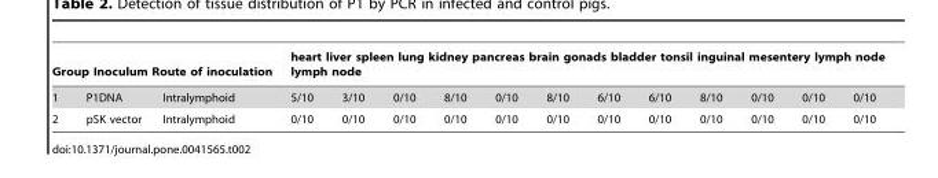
<table><thead><tr><td colspan="3">Group Inoculum Route of inoculation</td><td colspan="12">heart liver spleen lung kidney pancreas brain gonads bladder tonsil inguinal mesentery lymph node lymph node</td></tr><tr><td>1</td><td>P1DNA</td><td>Intralymphoid</td><td>5/10</td><td>3/10</td><td>0/10</td><td>8/10</td><td>0/10</td><td>8/10</td><td>6/10</td><td>6/10</td><td>8/10</td><td>0/10</td><td>0/10</td><td>0/10</td></tr></thead><tbody><tr><td>2</td><td>pSK vector</td><td>Intralymphoid</td><td>0/10</td><td>0/10</td><td>0/10</td><td>0/10</td><td>0/10</td><td>0/10</td><td>0/10</td><td>0/10</td><td>0/10</td><td>0/10</td><td>0/10</td><td>0/10</td></tr></tbody></table>